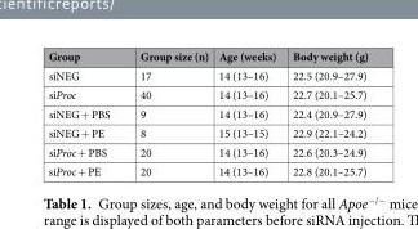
<table><thead><tr><td>Group</td><td>Group size (n)</td><td>Age (weeks)</td><td>Body weight (g)</td></tr></thead><tbody><tr><td>siNEG</td><td>17</td><td>14 (13–16)</td><td>22.5 (20.9–27.9)</td></tr><tr><td>siProc</td><td>40</td><td>14 (13–16)</td><td>22.7 (20.1–25.7)</td></tr><tr><td>siNEG + PBS</td><td>9</td><td>14 (13–16)</td><td>22.4 (20.9–27.9)</td></tr><tr><td>siNEG + PE</td><td>8</td><td>15 (13–15)</td><td>22.9 (22.1–24.2)</td></tr><tr><td>siProc + PBS</td><td>20</td><td>14 (13–16)</td><td>22.6 (20.3–24.9)</td></tr><tr><td>siProc + PE</td><td>20</td><td>14 (13–16)</td><td>22.8 (20.1–25.7)</td></tr></tbody></table>